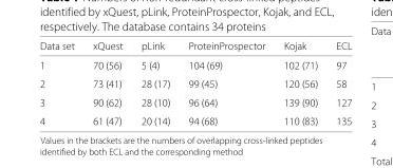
<table><thead><tr><td>Data set</td><td>xQuest</td><td>pLink</td><td>ProteinProspector</td><td>Kojak</td><td>ECL</td></tr></thead><tbody><tr><td>1</td><td>70 (56)</td><td>5 (4)</td><td>104 (69)</td><td>102 (71)</td><td>97</td></tr><tr><td>2</td><td>73 (41)</td><td>28 (17)</td><td>99 (45)</td><td>120 (56)</td><td>58</td></tr><tr><td>3</td><td>90 (62)</td><td>28 (10)</td><td>96 (64)</td><td>139 (90)</td><td>127</td></tr><tr><td>4</td><td>61 (47)</td><td>20 (14)</td><td>94 (68)</td><td>110 (83)</td><td>135</td></tr></tbody></table>